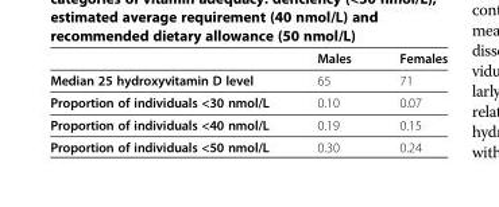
<table><thead><tr><td></td><td>Males</td><td>Females</td></tr></thead><tbody><tr><td>Median 25 hydroxyvitamin D level</td><td>65</td><td>71</td></tr><tr><td>Proportion of individuals &lt;30 nmol/L</td><td>0.10</td><td>0.07</td></tr><tr><td>Proportion of individuals &lt;40 nmol/L</td><td>0.19</td><td>0.15</td></tr><tr><td>Proportion of individuals &lt;50 nmol/L</td><td>0.30</td><td>0.24</td></tr></tbody></table>